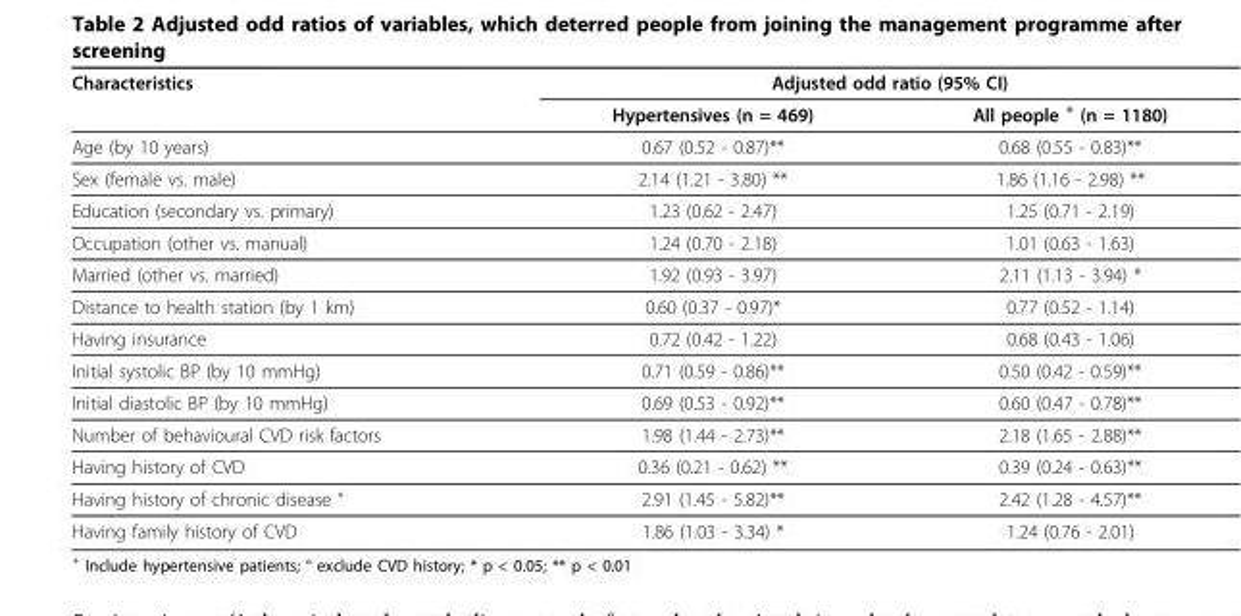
<table><thead><tr><td rowspan="2">Characteristics</td><td colspan="2">Adjusted odd ratio (95% CI)</td></tr><tr><td>Hypertensives (n = 469)</td><td>All people <sup>+</sup> (n = 1180)</td></tr></thead><tbody><tr><td>Age (by 10 years)</td><td>0.67 (0.52 - 0.87)**</td><td>0.68 (0.55 - 0.83)**</td></tr><tr><td>Sex (female vs. male)</td><td>2.14 (1.21 - 3.80) **</td><td>1.86 (1.16 - 2.98) **</td></tr><tr><td>Education (secondary vs. primary)</td><td>1.23 (0.62 - 2.47)</td><td>1.25 (0.71 - 2.19)</td></tr><tr><td>Occupation (other vs. manual)</td><td>1.24 (0.70 - 2.18)</td><td>1.01 (0.63 - 1.63)</td></tr><tr><td>Married (other vs. married)</td><td>1.92 (0.93 - 3.97)</td><td>2.11 (1.13 - 3.94) *</td></tr><tr><td>Distance to health station (by 1 km)</td><td>0.60 (0.37 - 0.97)*</td><td>0.77 (0.52 - 1.14)</td></tr><tr><td>Having insurance</td><td>0.72 (0.42 - 1.22)</td><td>0.68 (0.43 - 1.06)</td></tr><tr><td>Initial systolic BP (by 10 mmHg)</td><td>0.71 (0.59 - 0.86)**</td><td>0.50 (0.42 - 0.59)**</td></tr><tr><td>Initial diastolic BP (by 10 mmHg)</td><td>0.69 (0.53 - 0.92)**</td><td>0.60 (0.47 - 0.78)**</td></tr><tr><td>Number of behavioural CVD risk factors</td><td>1.98 (1.44 - 2.73)**</td><td>2.18 (1.65 - 2.88)**</td></tr><tr><td>Having history of CVD</td><td>0.36 (0.21 - 0.62) **</td><td>0.39 (0.24 - 0.63)**</td></tr><tr><td>Having history of chronic disease °</td><td>2.91 (1.45 - 5.82)**</td><td>2.42 (1.28 - 4.57)**</td></tr><tr><td>Having family history of CVD</td><td>1.86 (1.03 - 3.34) *</td><td>1.24 (0.76 - 2.01)</td></tr></tbody></table>